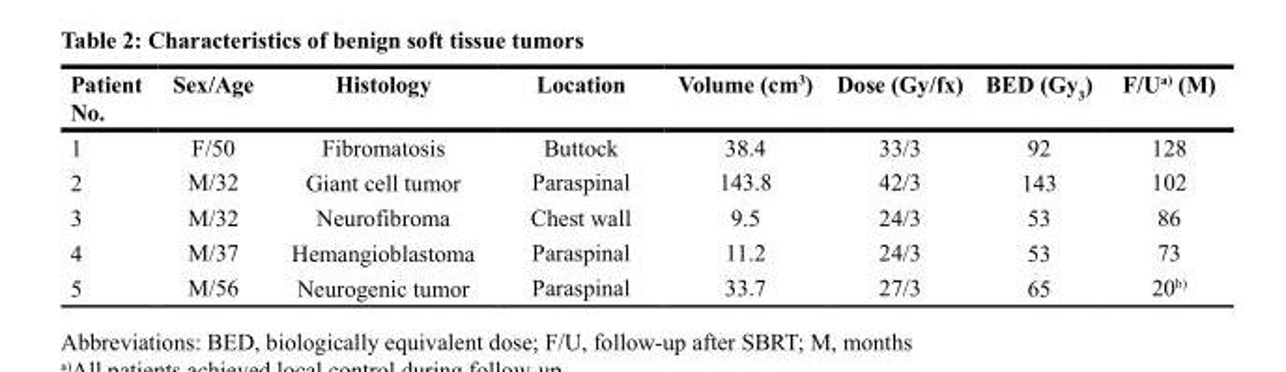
<table><thead><tr><td>Patient No.</td><td>Sex/Age</td><td>Histology</td><td>Location</td><td>Volume (cm<sup>3</sup>)</td><td>Dose (Gy/fx)</td><td>BED (Gy<sub>3</sub>)</td><td>F/U<sup>a)</sup> (M)</td></tr></thead><tbody><tr><td>1</td><td>F/50</td><td>Fibromatosis</td><td>Buttock</td><td>38.4</td><td>33/3</td><td>92</td><td>128</td></tr><tr><td>2</td><td>M/32</td><td>Giant cell tumor</td><td>Paraspinal</td><td>143.8</td><td>42/3</td><td>143</td><td>102</td></tr><tr><td>3</td><td>M/32</td><td>Neurofibroma</td><td>Chest wall</td><td>9.5</td><td>24/3</td><td>53</td><td>86</td></tr><tr><td>4</td><td>M/37</td><td>Hemangioblastoma</td><td>Paraspinal</td><td>11.2</td><td>24/3</td><td>53</td><td>73</td></tr><tr><td>5</td><td>M/56</td><td>Neurogenic tumor</td><td>Paraspinal</td><td>33.7</td><td>27/3</td><td>65</td><td>20<sup>b)</sup></td></tr></tbody></table>